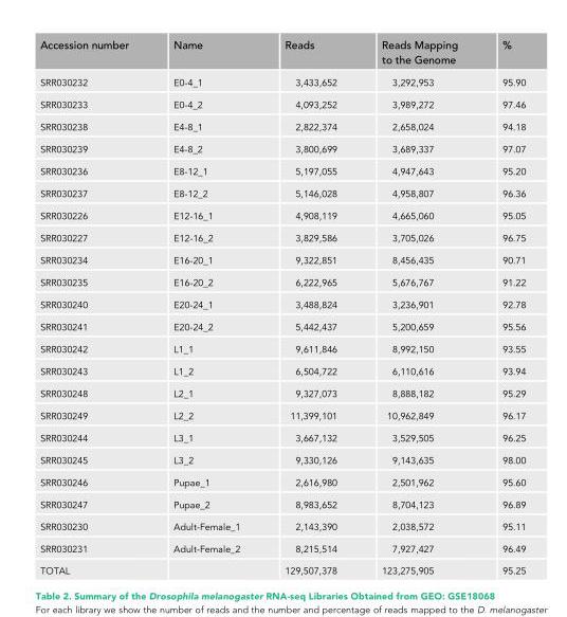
<table><thead><tr><td>Accession number</td><td>Name</td><td>Reads</td><td>Reads Mapping to the Genome</td><td>%</td></tr></thead><tbody><tr><td>SRR030232</td><td>E0-4_1</td><td>3,433,652</td><td>3,292,953</td><td>95.90</td></tr><tr><td>SRR030233</td><td>E0-4_2</td><td>4,093,252</td><td>3,989,272</td><td>97.46</td></tr><tr><td>SRR030238</td><td>E4-8_1</td><td>2,822,374</td><td>2,658,024</td><td>94.18</td></tr><tr><td>SRR030239</td><td>E4-8_2</td><td>3,800,699</td><td>3,689,337</td><td>97.07</td></tr><tr><td>SRR030236</td><td>E8-12_1</td><td>5,197,055</td><td>4,947,643</td><td>95.20</td></tr><tr><td>SRR030237</td><td>E8-12_2</td><td>5,146,028</td><td>4,958,807</td><td>96.36</td></tr><tr><td>SRR030226</td><td>E12-16_1</td><td>4,908,119</td><td>4,665,060</td><td>95.05</td></tr><tr><td>SRR030227</td><td>E12-16_2</td><td>3,829,586</td><td>3,705,026</td><td>96.75</td></tr><tr><td>SRR030234</td><td>E16-20_1</td><td>9,322,851</td><td>8,456,435</td><td>90.71</td></tr><tr><td>SRR030235</td><td>E16-20_2</td><td>6,222,965</td><td>5,676,767</td><td>91.22</td></tr><tr><td>SRR030240</td><td>E20-24_1</td><td>3,488,824</td><td>3,236,901</td><td>92.78</td></tr><tr><td>SRR030241</td><td>E20-24_2</td><td>5,442,437</td><td>5,200,659</td><td>95.56</td></tr><tr><td>SRR030242</td><td>L1_1</td><td>9,611,846</td><td>8,992,150</td><td>93.55</td></tr><tr><td>SRR030243</td><td>L1_2</td><td>6,504,722</td><td>6,110,616</td><td>93.94</td></tr><tr><td>SRR030248</td><td>L2_1</td><td>9,327,073</td><td>8,888,182</td><td>95.29</td></tr><tr><td>SRR030249</td><td>L2_2</td><td>11,399,101</td><td>10,962,849</td><td>96.17</td></tr><tr><td>SRR030244</td><td>L3_1</td><td>3,667,132</td><td>3,529,505</td><td>96.25</td></tr><tr><td>SRR030245</td><td>L3_2</td><td>9,330,126</td><td>9,143,635</td><td>98.00</td></tr><tr><td>SRR030246</td><td>Pupae_1</td><td>2,616,980</td><td>2,501,962</td><td>95.60</td></tr><tr><td>SRR030247</td><td>Pupae_2</td><td>8,983,652</td><td>8,704,123</td><td>96.89</td></tr><tr><td>SRR030230</td><td>Adult-Female_1</td><td>2,143,390</td><td>2,038,572</td><td>95.11</td></tr><tr><td>SRR030231</td><td>Adult-Female_2</td><td>8,215,514</td><td>7,927,427</td><td>96.49</td></tr><tr><td>TOTAL</td><td></td><td>129,507,378</td><td>123,275,905</td><td>95.25</td></tr></tbody></table>